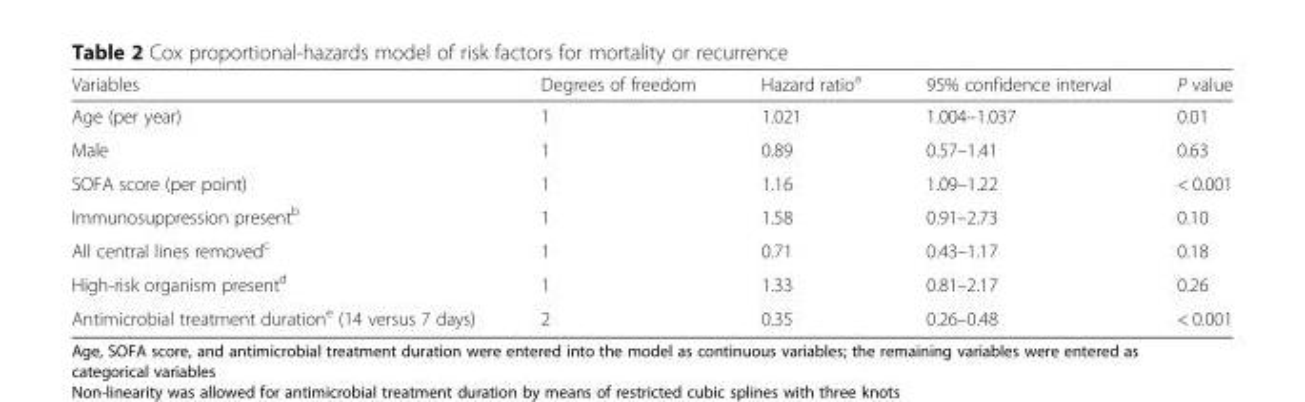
<table><thead><tr><td>Variables</td><td>Degrees of freedom</td><td>Hazard ratio<sup>a</sup></td><td>95% confidence interval</td><td>P value</td></tr></thead><tbody><tr><td>Age (per year)</td><td>1</td><td>1.021</td><td>1.004–1.037</td><td>0.01</td></tr><tr><td>Male</td><td>1</td><td>0.89</td><td>0.57–1.41</td><td>0.63</td></tr><tr><td>SOFA score (per point)</td><td>1</td><td>1.16</td><td>1.09–1.22</td><td>&lt; 0.001</td></tr><tr><td>Immunosuppression present<sup>b</sup></td><td>1</td><td>1.58</td><td>0.91–2.73</td><td>0.10</td></tr><tr><td>All central lines removed<sup>c</sup></td><td>1</td><td>0.71</td><td>0.43–1.17</td><td>0.18</td></tr><tr><td>High-risk organism present<sup>d</sup></td><td>1</td><td>1.33</td><td>0.81–2.17</td><td>0.26</td></tr><tr><td>Antimicrobial treatment duration<sup>e</sup> (14 versus 7 days)</td><td>2</td><td>0.35</td><td>0.26–0.48</td><td>&lt; 0.001</td></tr></tbody></table>